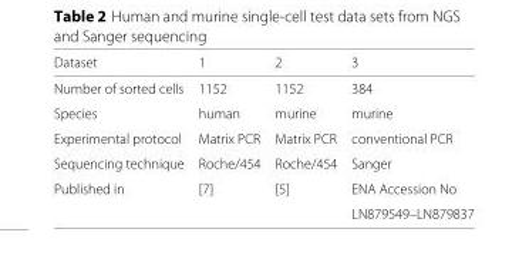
<table><thead><tr><td>Dataset</td><td>1</td><td>2</td><td>3</td></tr></thead><tbody><tr><td>Number of sorted cells</td><td>1152</td><td>1152</td><td>384</td></tr><tr><td>Species</td><td>human</td><td>murine</td><td>murine</td></tr><tr><td>Experimental protocol</td><td>Matrix PCR</td><td>Matrix PCR</td><td>conventional PCR</td></tr><tr><td>Sequencing technique</td><td>Roche/454</td><td>Roche/454</td><td>Sanger</td></tr><tr><td rowspan="2">Published in</td><td>[7]</td><td>[5]</td><td>ENA Accession No</td></tr><tr><td></td><td></td><td>LN879549–LN879837</td></tr></tbody></table>